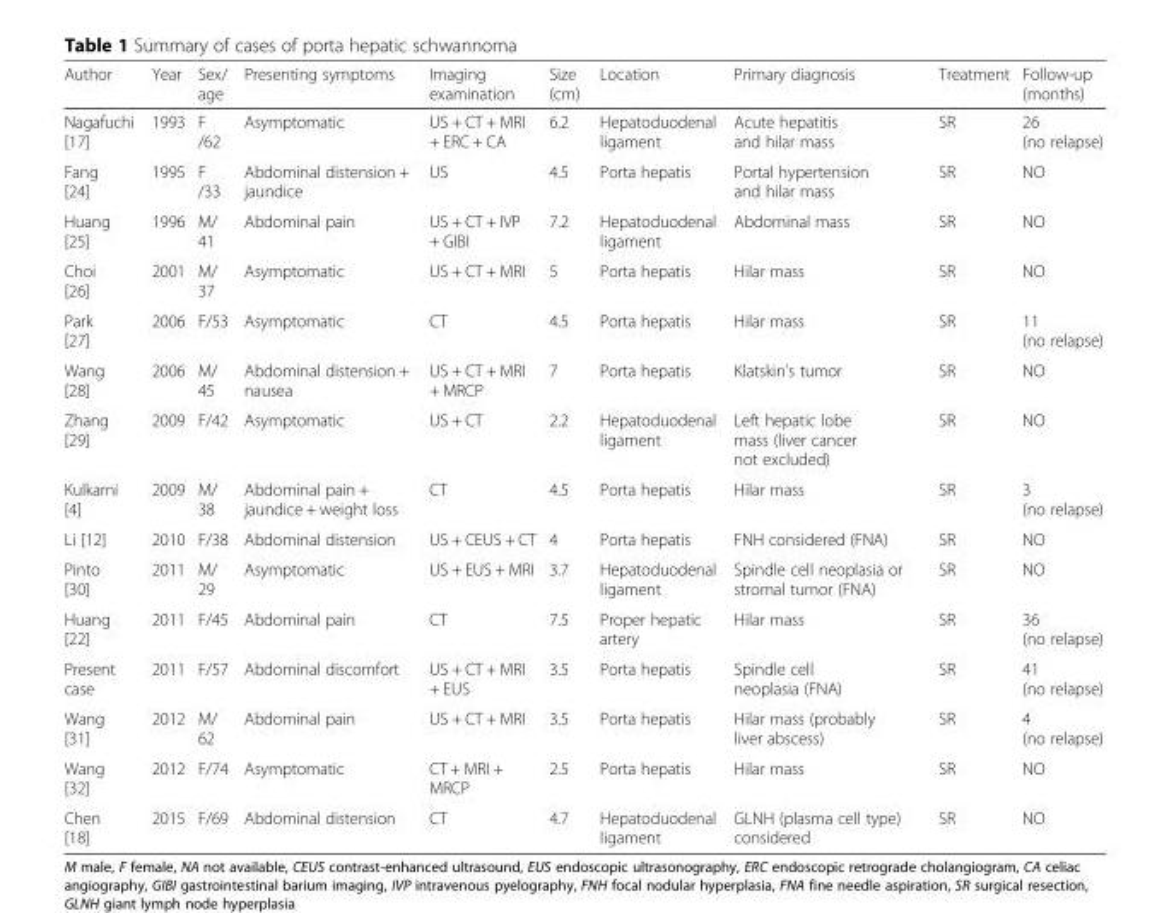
<table><thead><tr><td>Author</td><td>Year</td><td>Sex/ age</td><td>Presenting symptoms</td><td>Imaging examination</td><td>Size (cm)</td><td>Location</td><td>Primary diagnosis</td><td>Treatment</td><td>Follow-up (months)</td></tr></thead><tbody><tr><td>Nagafuchi [17]</td><td>1993</td><td>F /62</td><td>Asymptomatic</td><td>US + CT + MRI + ERC + CA</td><td>6.2</td><td>Hepatoduodenal ligament</td><td>Acute hepatitis and hilar mass</td><td>SR</td><td>26 (no relapse)</td></tr><tr><td>Fang [24]</td><td>1995</td><td>F /33</td><td>Abdominal distension + jaundice</td><td>US</td><td>4.5</td><td>Porta hepatis</td><td>Portal hypertension and hilar mass</td><td>SR</td><td>NO</td></tr><tr><td>Huang [25]</td><td>1996</td><td>M/ 41</td><td>Abdominal pain</td><td>US + CT + IVP + GIBI</td><td>7.2</td><td>Hepatoduodenal ligament</td><td>Abdominal mass</td><td>SR</td><td>NO</td></tr><tr><td>Choi [26]</td><td>2001</td><td>M/ 37</td><td>Asymptomatic</td><td>US + CT + MRI</td><td>5</td><td>Porta hepatis</td><td>Hilar mass</td><td>SR</td><td>NO</td></tr><tr><td>Park [27]</td><td>2006</td><td>F/53</td><td>Asymptomatic</td><td>CT</td><td>4.5</td><td>Porta hepatis</td><td>Hilar mass</td><td>SR</td><td>11 (no relapse)</td></tr><tr><td>Wang [28]</td><td>2006</td><td>M/ 45</td><td>Abdominal distension + nausea</td><td>US + CT + MRI + MRCP</td><td>7</td><td>Porta hepatis</td><td>Klatskin’s tumor</td><td>SR</td><td>NO</td></tr><tr><td>Zhang [29]</td><td>2009</td><td>F/42</td><td>Asymptomatic</td><td>US + CT</td><td>2.2</td><td>Hepatoduodenal ligament</td><td>Left hepatic lobe mass (liver cancer not excluded)</td><td>SR</td><td>NO</td></tr><tr><td>Kulkarni [4]</td><td>2009</td><td>M/ 38</td><td>Abdominal pain + jaundice + weight loss</td><td>CT</td><td>4.5</td><td>Porta hepatis</td><td>Hilar mass</td><td>SR</td><td>3 (no relapse)</td></tr><tr><td>Li [12]</td><td>2010</td><td>F/38</td><td>Abdominal distension</td><td>US + CEUS + CT</td><td>4</td><td>Porta hepatis</td><td>FNH considered (FNA)</td><td>SR</td><td>NO</td></tr><tr><td>Pinto [30]</td><td>2011</td><td>M/ 29</td><td>Asymptomatic</td><td>US + EUS + MRI</td><td>3.7</td><td>Hepatoduodenal ligament</td><td>Spindle cell neoplasia or stromal tumor (FNA)</td><td>SR</td><td>NO</td></tr><tr><td>Huang [22]</td><td>2011</td><td>F/45</td><td>Abdominal pain</td><td>CT</td><td>7.5</td><td>Proper hepatic artery</td><td>Hilar mass</td><td>SR</td><td>36 (no relapse)</td></tr><tr><td>Present case</td><td>2011</td><td>F/57</td><td>Abdominal discomfort</td><td>US + CT + MRI + EUS</td><td>3.5</td><td>Porta hepatis</td><td>Spindle cell neoplasia (FNA)</td><td>SR</td><td>41 (no relapse)</td></tr><tr><td>Wang [31]</td><td>2012</td><td>M/ 62</td><td>Abdominal pain</td><td>US + CT + MRI</td><td>3.5</td><td>Porta hepatis</td><td>Hilar mass (probably liver abscess)</td><td>SR</td><td>4 (no relapse)</td></tr><tr><td>Wang [32]</td><td>2012</td><td>F/74</td><td>Asymptomatic</td><td>CT + MRI + MRCP</td><td>2.5</td><td>Porta hepatis</td><td>Hilar mass</td><td>SR</td><td>NO</td></tr><tr><td>Chen [18]</td><td>2015</td><td>F/69</td><td>Abdominal distension</td><td>CT</td><td>4.7</td><td>Hepatoduodenal ligament</td><td>GLNH (plasma cell type) considered</td><td>SR</td><td>NO</td></tr></tbody></table>